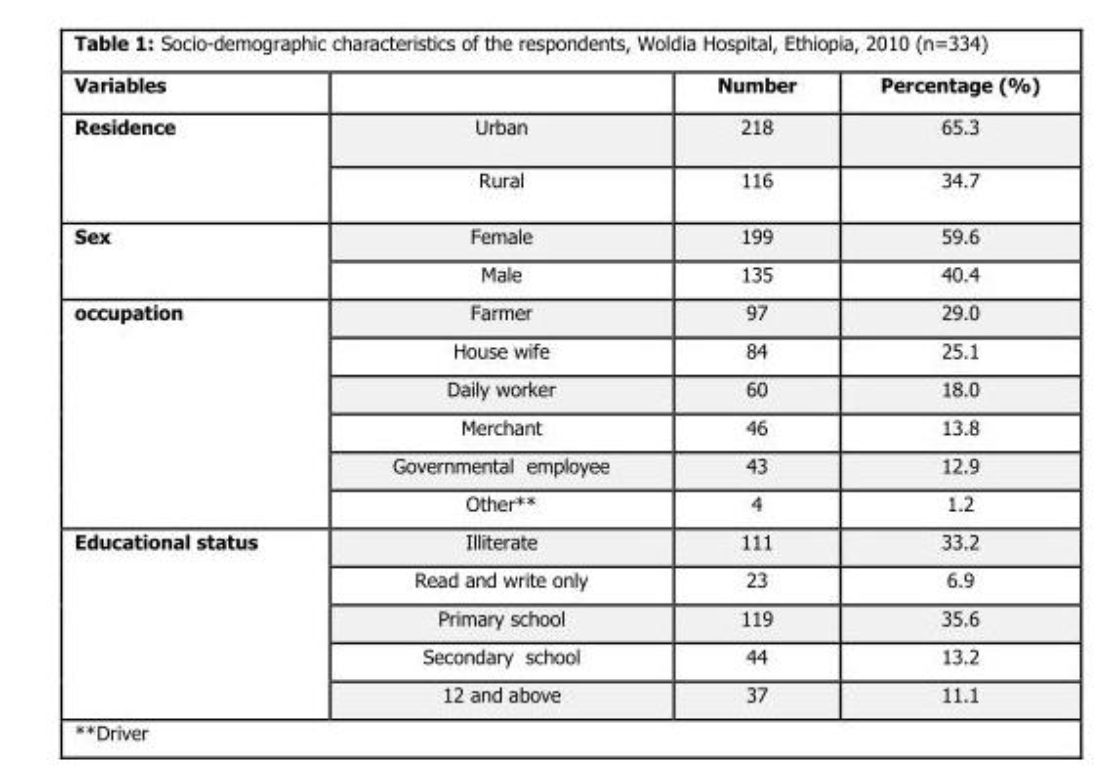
<table><thead><tr><td>Variables</td><td></td><td>Number</td><td>Percentage (%)</td></tr></thead><tbody><tr><td rowspan="2">Residence</td><td>Urban</td><td>218</td><td>65.3</td></tr><tr><td>Rural</td><td>116</td><td>34.7</td></tr><tr><td rowspan="2">Sex</td><td>Female</td><td>199</td><td>59.6</td></tr><tr><td>Male</td><td>135</td><td>40.4</td></tr><tr><td rowspan="6">occupation</td><td>Farmer</td><td>97</td><td>29.0</td></tr><tr><td>House wife</td><td>84</td><td>25.1</td></tr><tr><td>Daily worker</td><td>60</td><td>18.0</td></tr><tr><td>Merchant</td><td>46</td><td>13.8</td></tr><tr><td>Governmental employee</td><td>43</td><td>12.9</td></tr><tr><td>Other**</td><td>4</td><td>1.2</td></tr><tr><td rowspan="5">Educational status</td><td>Illiterate</td><td>111</td><td>33.2</td></tr><tr><td>Read and write only</td><td>23</td><td>6.9</td></tr><tr><td>Primary school</td><td>119</td><td>35.6</td></tr><tr><td>Secondary school</td><td>44</td><td>13.2</td></tr><tr><td>12 and above</td><td>37</td><td>11.1</td></tr></tbody></table>